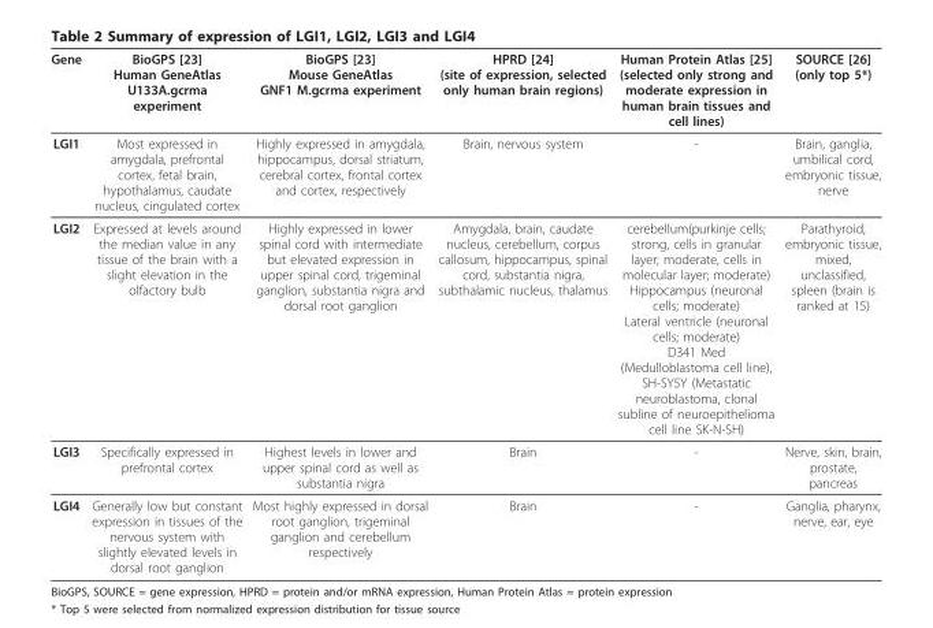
<table><thead><tr><td>Gene</td><td>BioGPS [23] Human GeneAtlas U133A.gcrma experiment</td><td>BioGPS [23] Mouse GeneAtlas GNF1 M.gcrma experiment</td><td>HPRD [24] (site of expression, selected only human brain regions)</td><td>Human Protein Atlas [25] (selected only strong and moderate expression in human brain tissues and cell lines)</td><td>SOURCE [26] (only top 5*)</td></tr></thead><tbody><tr><td>LGI1</td><td>Most expressed in amygdala, prefrontal cortex, fetal brain, hypothalamus, caudate nucleus, cingulated cortex</td><td>Highly expressed in amygdala, hippocampus, dorsal striatum, cerebral cortex, frontal cortex and cortex, respectively</td><td>Brain, nervous system</td><td>-</td><td>Brain, ganglia, umbilical cord, embryonic tissue, nerve</td></tr><tr><td>LGI2</td><td>Expressed at levels around the median value in any tissue of the brain with a slight elevation in the olfactory bulb</td><td>Highly expressed in lower spinal cord with intermediate but elevated expression in upper spinal cord, trigeminal ganglion, substantia nigra and dorsal root ganglion</td><td>Amygdala, brain, caudate nucleus, cerebellum, corpus callosum, hippocampus, spinal cord, substantia nigra, subthalamic nucleus, thalamus</td><td>cerebellum(purkinje cells; strong, cells in granular layer; moderate, cells in molecular layer; moderate) Hippocampus (neuronal cells; moderate) Lateral ventricle (neuronal cells; moderate) D341 Med (Medulloblastoma cell line), SH-SY5Y (Metastatic neuroblastoma, clonal subline of neuroepithelioma cell line SK-N-SH)</td><td>Parathyroid, embryonic tissue, mixed, unclassified, spleen (brain is ranked at 15)</td></tr><tr><td>LGI3</td><td>Specifically expressed in prefrontal cortex</td><td>Highest levels in lower and upper spinal cord as well as substantia nigra</td><td>Brain</td><td>-</td><td>Nerve, skin, brain, prostate, pancreas</td></tr><tr><td>LGI4</td><td>Generally low but constant expression in tissues of the nervous system with slightly elevated levels in dorsal root ganglion</td><td>Most highly expressed in dorsal root ganglion, trigeminal ganglion and cerebellum respectively</td><td>Brain</td><td>-</td><td>Ganglia, pharynx, nerve, ear, eye</td></tr></tbody></table>